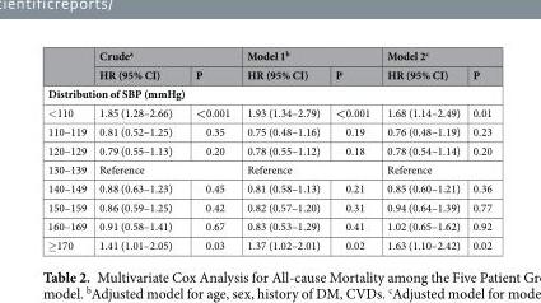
<table><thead><tr><td rowspan="2"></td><td colspan="2">Crude<sup>a</sup></td><td colspan="2">Model 1<sup>b</sup></td><td colspan="2">Model 2<sup>c</sup></td></tr><tr><td>HR (95% CI)</td><td>P</td><td>HR (95% CI)</td><td>P</td><td>HR (95% CI)</td><td>P</td></tr></thead><tbody><tr><td colspan="7">Distribution of SBP (mmHg)</td></tr><tr><td>&lt;110</td><td>1.85 (1.28–2.66)</td><td>&lt;0.001</td><td>1.93 (1.34–2.79)</td><td>&lt;0.001</td><td>1.68 (1.14–2.49)</td><td>0.01</td></tr><tr><td>110–119</td><td>0.81 (0.52–1.25)</td><td>0.35</td><td>0.75 (0.48–1.16)</td><td>0.19</td><td>0.76 (0.48–1.19)</td><td>0.23</td></tr><tr><td>120–129</td><td>0.79 (0.55–1.13)</td><td>0.20</td><td>0.78 (0.55–1.12)</td><td>0.18</td><td>0.78 (0.54–1.14)</td><td>0.20</td></tr><tr><td>130–139</td><td colspan="2">Reference</td><td colspan="2">Reference</td><td colspan="2">Reference</td></tr><tr><td>140–149</td><td>0.88 (0.63–1.23)</td><td>0.45</td><td>0.81 (0.58–1.13)</td><td>0.21</td><td>0.85 (0.60–1.21)</td><td>0.36</td></tr><tr><td>150–159</td><td>0.86 (0.59–1.25)</td><td>0.42</td><td>0.82 (0.57–1.20)</td><td>0.31</td><td>0.94 (0.64–1.39)</td><td>0.77</td></tr><tr><td>160–169</td><td>0.91 (0.58–1.41)</td><td>0.67</td><td>0.83 (0.53–1.29)</td><td>0.41</td><td>1.02 (0.65–1.62)</td><td>0.92</td></tr><tr><td>≥170</td><td>1.41 (1.01–2.05)</td><td>0.03</td><td>1.37 (1.02–2.01)</td><td>0.02</td><td>1.63 (1.10–2.42)</td><td>0.02</td></tr></tbody></table>